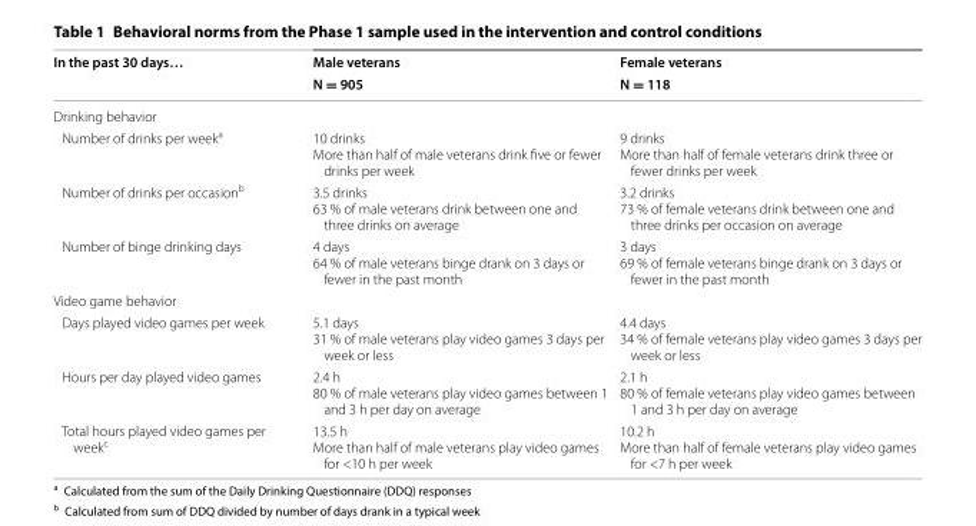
<table><thead><tr><td rowspan="2">In the past 30 days…</td><td rowspan="2">Male veterans N = 905</td><td rowspan="2">Female veterans N = 118</td></tr><tr></tr></thead><tbody><tr><td colspan="3">Drinking behavior</td></tr><tr><td>Number of drinks per week<sup>a</sup></td><td>10 drinks More than half of male veterans drink five or fewer drinks per week</td><td>9 drinks More than half of female veterans drink three or fewer drinks per week</td></tr><tr><td>Number of drinks per occasion<sup>b</sup></td><td>3.5 drinks 63 % of male veterans drink between one and three drinks on average</td><td>3.2 drinks 73 % of female veterans drink between one and three drinks per occasion on average</td></tr><tr><td>Number of binge drinking days</td><td>4 days 64 % of male veterans binge drank on 3 days or fewer in the past month</td><td>3 days 69 % of female veterans binge drank on 3 days or fewer in the past month</td></tr><tr><td colspan="3">Video game behavior</td></tr><tr><td>Days played video games per week</td><td>5.1 days 31 % of male veterans play video games 3 days per week or less</td><td>4.4 days 34 % of female veterans play video games 3 days per week or less</td></tr><tr><td>Hours per day played video games</td><td>2.4 h 80 % of male veterans play video games between 1 and 3 h per day on average</td><td>2.1 h 80 % of female veterans play video games between 1 and 3 h per day on average</td></tr><tr><td>Total hours played video games per week<sup>c</sup></td><td>13.5 h More than half of male veterans play video games for &lt;10 h per week</td><td>10.2 h More than half of female veterans play video games for &lt;7 h per week</td></tr></tbody></table>